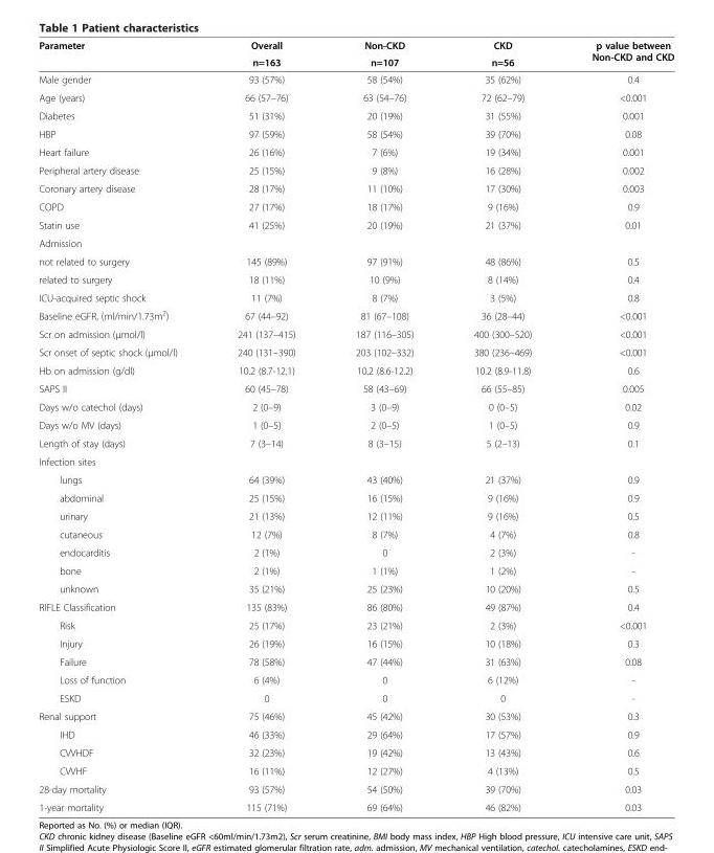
<table><thead><tr><td rowspan="2">Parameter</td><td rowspan="2">Overall n=163</td><td rowspan="2">Non-CKD n=107</td><td rowspan="2">CKD n=56</td><td rowspan="2">p value between Non-CKD and CKD</td></tr><tr></tr></thead><tbody><tr><td>Male gender</td><td>93 (57%)</td><td>58 (54%)</td><td>35 (62%)</td><td>0.4</td></tr><tr><td>Age (years)</td><td>66 (57–76)</td><td>63 (54–76)</td><td>72 (62–79)</td><td>&lt;0.001</td></tr><tr><td>Diabetes</td><td>51 (31%)</td><td>20 (19%)</td><td>31 (55%)</td><td>0.001</td></tr><tr><td>HBP</td><td>97 (59%)</td><td>58 (54%)</td><td>39 (70%)</td><td>0.08</td></tr><tr><td>Heart failure</td><td>26 (16%)</td><td>7 (6%)</td><td>19 (34%)</td><td>0.001</td></tr><tr><td>Peripheral artery disease</td><td>25 (15%)</td><td>9 (8%)</td><td>16 (28%)</td><td>0.002</td></tr><tr><td>Coronary artery disease</td><td>28 (17%)</td><td>11 (10%)</td><td>17 (30%)</td><td>0.003</td></tr><tr><td>COPD</td><td>27 (17%)</td><td>18 (17%)</td><td>9 (16%)</td><td>0.9</td></tr><tr><td>Statin use</td><td>41 (25%)</td><td>20 (19%)</td><td>21 (37%)</td><td>0.01</td></tr><tr><td colspan="5">Admission</td></tr><tr><td>not related to surgery</td><td>145 (89%)</td><td>97 (91%)</td><td>48 (86%)</td><td>0.5</td></tr><tr><td>related to surgery</td><td>18 (11%)</td><td>10 (9%)</td><td>8 (14%)</td><td>0.4</td></tr><tr><td>ICU-acquired septic shock</td><td>11 (7%)</td><td>8 (7%)</td><td>3 (5%)</td><td>0.8</td></tr><tr><td>Baseline eGFR, (ml/min/1.73m<sup>2</sup>)</td><td>67 (44–92)</td><td>81 (67–108)</td><td>36 (28–44)</td><td>&lt;0.001</td></tr><tr><td>Scr on admission (μmol/l)</td><td>241 (137–415)</td><td>187 (116–305)</td><td>400 (300–520)</td><td>&lt;0.001</td></tr><tr><td>Scr onset of septic shock (μmol/l)</td><td>240 (131–390)</td><td>203 (102–332)</td><td>380 (236–469)</td><td>&lt;0.001</td></tr><tr><td>Hb on admission (g/dl)</td><td>10.2 (8.7-12.1)</td><td>10.2 (8.6-12.2)</td><td>10.2 (8.9-11.8)</td><td>0.6</td></tr><tr><td>SAPS II</td><td>60 (45–78)</td><td>58 (43–69)</td><td>66 (55–85)</td><td>0.005</td></tr><tr><td>Days w/o catechol (days)</td><td>2 (0–9)</td><td>3 (0–9)</td><td>0 (0–5)</td><td>0.02</td></tr><tr><td>Days w/o MV (days)</td><td>1 (0–5)</td><td>2 (0–5)</td><td>1 (0–5)</td><td>0.9</td></tr><tr><td>Length of stay (days)</td><td>7 (3–14)</td><td>8 (3–15)</td><td>5 (2–13)</td><td>0.1</td></tr><tr><td colspan="5">Infection sites</td></tr><tr><td>lungs</td><td>64 (39%)</td><td>43 (40%)</td><td>21 (37%)</td><td>0.9</td></tr><tr><td>abdominal</td><td>25 (15%)</td><td>16 (15%)</td><td>9 (16%)</td><td>0.9</td></tr><tr><td>urinary</td><td>21 (13%)</td><td>12 (11%)</td><td>9 (16%)</td><td>0.5</td></tr><tr><td>cutaneous</td><td>12 (7%)</td><td>8 (7%)</td><td>4 (7%)</td><td>0.8</td></tr><tr><td>endocarditis</td><td>2 (1%)</td><td>0</td><td>2 (3%)</td><td>-</td></tr><tr><td>bone</td><td>2 (1%)</td><td>1 (1%)</td><td>1 (2%)</td><td>-</td></tr><tr><td>unknown</td><td>35 (21%)</td><td>25 (23%)</td><td>10 (20%)</td><td>0.5</td></tr><tr><td>RIFLE Classification</td><td>135 (83%)</td><td>86 (80%)</td><td>49 (87%)</td><td>0.4</td></tr><tr><td>Risk</td><td>25 (17%)</td><td>23 (21%)</td><td>2 (3%)</td><td>&lt;0.001</td></tr><tr><td>Injury</td><td>26 (19%)</td><td>16 (15%)</td><td>10 (18%)</td><td>0.3</td></tr><tr><td>Failure</td><td>78 (58%)</td><td>47 (44%)</td><td>31 (63%)</td><td>0.08</td></tr><tr><td>Loss of function</td><td>6 (4%)</td><td>0</td><td>6 (12%)</td><td>-</td></tr><tr><td>ESKD</td><td>0</td><td>0</td><td>0</td><td>-</td></tr><tr><td>Renal support</td><td>75 (46%)</td><td>45 (42%)</td><td>30 (53%)</td><td>0.3</td></tr><tr><td>IHD</td><td>46 (33%)</td><td>29 (64%)</td><td>17 (57%)</td><td>0.9</td></tr><tr><td>CVVHDF</td><td>32 (23%)</td><td>19 (42%)</td><td>13 (43%)</td><td>0.6</td></tr><tr><td>CVVHF</td><td>16 (11%)</td><td>12 (27%)</td><td>4 (13%)</td><td>0.5</td></tr><tr><td>28-day mortality</td><td>93 (57%)</td><td>54 (50%)</td><td>39 (70%)</td><td>0.03</td></tr><tr><td>1-year mortality</td><td>115 (71%)</td><td>69 (64%)</td><td>46 (82%)</td><td>0.03</td></tr></tbody></table>